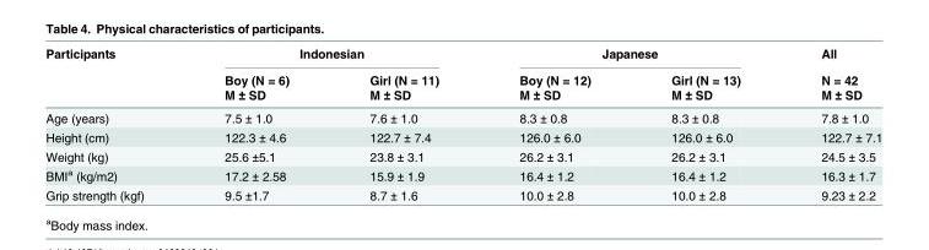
<table><thead><tr><td rowspan="3">Participants</td><td colspan="2">Indonesian</td><td colspan="2">Japanese</td><td rowspan="3">All N = 42 M ± SD</td></tr><tr><td rowspan="2">Boy (N = 6) M ± SD</td><td rowspan="2">Girl (N = 11) M ± SD</td><td rowspan="2">Boy (N = 12) M ± SD</td><td rowspan="2">Girl (N = 13) M ± SD</td></tr><tr></tr></thead><tbody><tr><td>Age (years)</td><td>7.5 ± 1.0</td><td>7.6 ± 1.0</td><td>8.3 ± 0.8</td><td>8.3 ± 0.8</td><td>7.8 ± 1.0</td></tr><tr><td>Height (cm)</td><td>122.3 ± 4.6</td><td>122.7 ± 7.4</td><td>126.0 ± 6.0</td><td>126.0 ± 6.0</td><td>122.7 ± 7.1</td></tr><tr><td>Weight (kg)</td><td>25.6 ±5.1</td><td>23.8 ± 3.1</td><td>26.2 ± 3.1</td><td>26.2 ± 3.1</td><td>24.5 ± 3.5</td></tr><tr><td>BMI<sup>a</sup> (kg/m2)</td><td>17.2 ± 2.58</td><td>15.9 ± 1.9</td><td>16.4 ± 1.2</td><td>16.4 ± 1.2</td><td>16.3 ± 1.7</td></tr><tr><td>Grip strength (kgf)</td><td>9.5 ±1.7</td><td>8.7 ± 1.6</td><td>10.0 ± 2.8</td><td>10.0 ± 2.8</td><td>9.23 ± 2.2</td></tr></tbody></table>